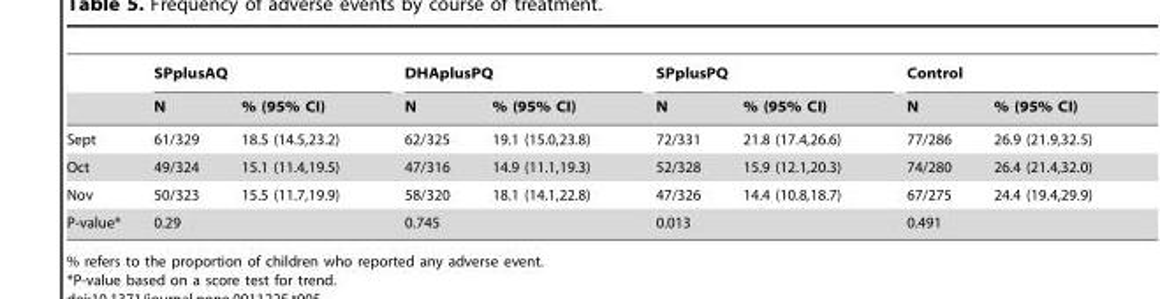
<table><thead><tr><td rowspan="2"></td><td colspan="2">SPplusAQ</td><td colspan="2">DHAplusPQ</td><td colspan="2">SPplusPQ</td><td colspan="2">Control</td></tr><tr><td>N</td><td>% (95% CI)</td><td>N</td><td>% (95% CI)</td><td>N</td><td>% (95% CI)</td><td>N</td><td>% (95% CI)</td></tr></thead><tbody><tr><td>Sept</td><td>61/329</td><td>18.5 (14.5,23.2)</td><td>62/325</td><td>19.1 (15.0,23.8)</td><td>72/331</td><td>21.8 (17.4,26.6)</td><td>77/286</td><td>26.9 (21.9,32.5)</td></tr><tr><td>Oct</td><td>49/324</td><td>15.1 (11.4,19.5)</td><td>47/316</td><td>14.9 (11.1,19.3)</td><td>52/328</td><td>15.9 (12.1,20.3)</td><td>74/280</td><td>26.4 (21.4,32.0)</td></tr><tr><td>Nov</td><td>50/323</td><td>15.5 (11.7,19.9)</td><td>58/320</td><td>18.1 (14.1,22.8)</td><td>47/326</td><td>14.4 (10.8,18.7)</td><td>67/275</td><td>24.4 (19.4,29.9)</td></tr><tr><td>P-value*</td><td colspan="2">0.29</td><td colspan="2">0.745</td><td colspan="2">0.013</td><td colspan="2">0.491</td></tr></tbody></table>